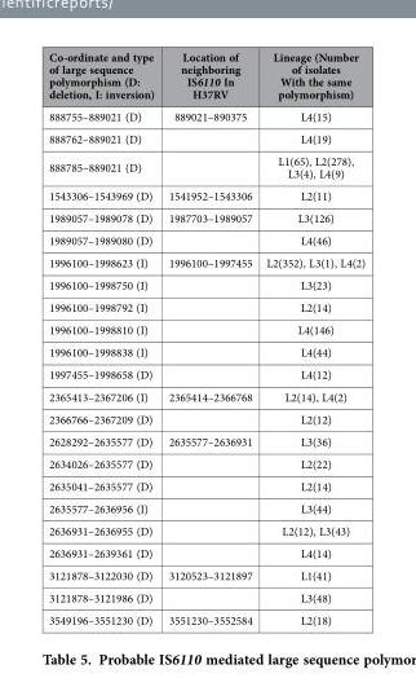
<table><thead><tr><td>Co-ordinate and type of large sequence polymorphism (D: deletion, I: inversion)</td><td>Location of neighboring IS6110 In H37RV</td><td>Lineage (Number of isolates With the same polymorphism)</td></tr></thead><tbody><tr><td>888755–889021 (D)</td><td>889021–890375</td><td>L4(15)</td></tr><tr><td>888762–889021 (D)</td><td></td><td>L4(19)</td></tr><tr><td>888785–889021 (D)</td><td></td><td>L1(65), L2(278), L3(4), L4(9)</td></tr><tr><td>1543306–1543969 (D)</td><td>1541952–1543306</td><td>L2(11)</td></tr><tr><td>1989057–1989078 (D)</td><td>1987703–1989057</td><td>L3(126)</td></tr><tr><td>1989057–1989080 (D)</td><td></td><td>L4(46)</td></tr><tr><td>1996100–1998623 (I)</td><td>1996100–1997455</td><td>L2(352), L3(1), L4(2)</td></tr><tr><td>1996100–1998750 (I)</td><td></td><td>L3(23)</td></tr><tr><td>1996100–1998792 (I)</td><td></td><td>L2(14)</td></tr><tr><td>1996100–1998810 (I)</td><td></td><td>L4(146)</td></tr><tr><td>1996100–1998838 (I)</td><td></td><td>L4(44)</td></tr><tr><td>1997455–1998658 (D)</td><td></td><td>L4(12)</td></tr><tr><td>2365413–2367206 (I)</td><td>2365414–2366768</td><td>L2(14), L4(2)</td></tr><tr><td>2366766–2367209 (D)</td><td></td><td>L2(12)</td></tr><tr><td>2628292–2635577 (D)</td><td>2635577–2636931</td><td>L3(36)</td></tr><tr><td>2634026–2635577 (D)</td><td></td><td>L2(22)</td></tr><tr><td>2635041–2635577 (D)</td><td></td><td>L2(14)</td></tr><tr><td>2635577–2636956 (I)</td><td></td><td>L3(44)</td></tr><tr><td>2636931–2636955 (D)</td><td></td><td>L2(12), L3(43)</td></tr><tr><td>2636931–2639361 (D)</td><td></td><td>L4(14)</td></tr><tr><td>3121878–3122030 (D)</td><td>3120523–3121897</td><td>L1(41)</td></tr><tr><td>3121878–3121986 (D)</td><td></td><td>L3(48)</td></tr><tr><td>3549196–3551230 (D)</td><td>3551230–3552584</td><td>L2(18)</td></tr></tbody></table>